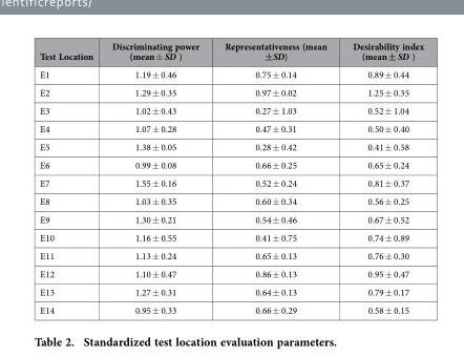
<table><thead><tr><td>Test Location</td><td>Discriminating power (mean ± SD )</td><td>Representativeness (mean ±SD)</td><td>Desirability index (mean ± SD )</td></tr></thead><tbody><tr><td>E1</td><td>1.19 ± 0.46</td><td>0.75 ± 0.14</td><td>0.89 ± 0.44</td></tr><tr><td>E2</td><td>1.29 ± 0.35</td><td>0.97 ± 0.02</td><td>1.25 ± 0.35</td></tr><tr><td>E3</td><td>1.02 ± 0.43</td><td>0.27 ± 1.03</td><td>0.52 ± 1.04</td></tr><tr><td>E4</td><td>1.07 ± 0.28</td><td>0.47 ± 0.31</td><td>0.50 ± 0.40</td></tr><tr><td>E5</td><td>1.38 ± 0.05</td><td>0.28 ± 0.42</td><td>0.41 ± 0.58</td></tr><tr><td>E6</td><td>0.99 ± 0.08</td><td>0.66 ± 0.25</td><td>0.65 ± 0.24</td></tr><tr><td>E7</td><td>1.55 ± 0.16</td><td>0.52 ± 0.24</td><td>0.81 ± 0.37</td></tr><tr><td>E8</td><td>1.03 ± 0.35</td><td>0.60 ± 0.34</td><td>0.56 ± 0.25</td></tr><tr><td>E9</td><td>1.30 ± 0.21</td><td>0.54 ± 0.46</td><td>0.67 ± 0.52</td></tr><tr><td>E10</td><td>1.16 ± 0.55</td><td>0.41 ± 0.75</td><td>0.74 ± 0.89</td></tr><tr><td>E11</td><td>1.13 ± 0.24</td><td>0.65 ± 0.13</td><td>0.76 ± 0.30</td></tr><tr><td>E12</td><td>1.10 ± 0.47</td><td>0.86 ± 0.13</td><td>0.95 ± 0.47</td></tr><tr><td>E13</td><td>1.27 ± 0.31</td><td>0.64 ± 0.13</td><td>0.79 ± 0.17</td></tr><tr><td>E14</td><td>0.95 ± 0.33</td><td>0.66 ± 0.29</td><td>0.58 ± 0.15</td></tr></tbody></table>